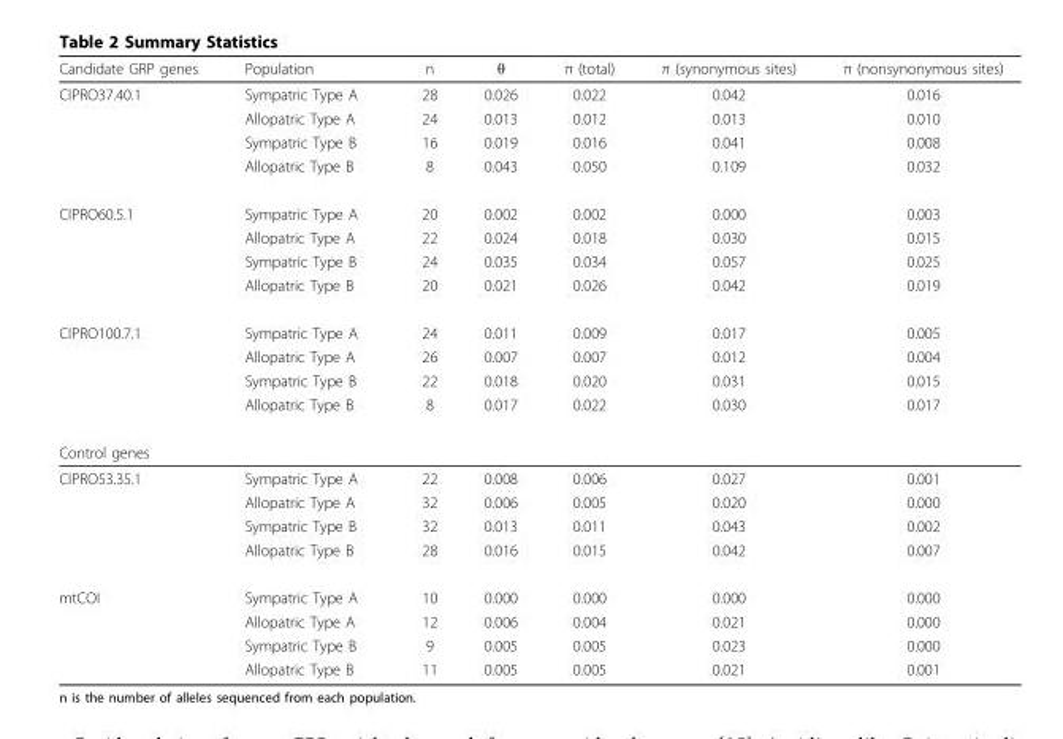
<table><thead><tr><td>Candidate GRP genes</td><td>Population</td><td>n</td><td>θ</td><td>π (total)</td><td>π (synonymous sites)</td><td>π (nonsynonymous sites)</td></tr></thead><tbody><tr><td rowspan="4">CIPRO37.40.1</td><td>Sympatric Type A</td><td>28</td><td>0.026</td><td>0.022</td><td>0.042</td><td>0.016</td></tr><tr><td>Allopatric Type A</td><td>24</td><td>0.013</td><td>0.012</td><td>0.013</td><td>0.010</td></tr><tr><td>Sympatric Type B</td><td>16</td><td>0.019</td><td>0.016</td><td>0.041</td><td>0.008</td></tr><tr><td>Allopatric Type B</td><td>8</td><td>0.043</td><td>0.050</td><td>0.109</td><td>0.032</td></tr><tr><td rowspan="4">CIPRO60.5.1</td><td>Sympatric Type A</td><td>20</td><td>0.002</td><td>0.002</td><td>0.000</td><td>0.003</td></tr><tr><td>Allopatric Type A</td><td>22</td><td>0.024</td><td>0.018</td><td>0.030</td><td>0.015</td></tr><tr><td>Sympatric Type B</td><td>24</td><td>0.035</td><td>0.034</td><td>0.057</td><td>0.025</td></tr><tr><td>Allopatric Type B</td><td>20</td><td>0.021</td><td>0.026</td><td>0.042</td><td>0.019</td></tr><tr><td rowspan="4">CIPRO100.7.1</td><td>Sympatric Type A</td><td>24</td><td>0.011</td><td>0.009</td><td>0.017</td><td>0.005</td></tr><tr><td>Allopatric Type A</td><td>26</td><td>0.007</td><td>0.007</td><td>0.012</td><td>0.004</td></tr><tr><td>Sympatric Type B</td><td>22</td><td>0.018</td><td>0.020</td><td>0.031</td><td>0.015</td></tr><tr><td>Allopatric Type B</td><td>8</td><td>0.017</td><td>0.022</td><td>0.030</td><td>0.017</td></tr><tr><td colspan="7">Control genes</td></tr><tr><td rowspan="4">CIPRO53.35.1</td><td>Sympatric Type A</td><td>22</td><td>0.008</td><td>0.006</td><td>0.027</td><td>0.001</td></tr><tr><td>Allopatric Type A</td><td>32</td><td>0.006</td><td>0.005</td><td>0.020</td><td>0.000</td></tr><tr><td>Sympatric Type B</td><td>32</td><td>0.013</td><td>0.011</td><td>0.043</td><td>0.002</td></tr><tr><td>Allopatric Type B</td><td>28</td><td>0.016</td><td>0.015</td><td>0.042</td><td>0.007</td></tr><tr><td rowspan="4">mtCOI</td><td>Sympatric Type A</td><td>10</td><td>0.000</td><td>0.000</td><td>0.000</td><td>0.000</td></tr><tr><td>Allopatric Type A</td><td>12</td><td>0.006</td><td>0.004</td><td>0.021</td><td>0.000</td></tr><tr><td>Sympatric Type B</td><td>9</td><td>0.005</td><td>0.005</td><td>0.023</td><td>0.000</td></tr><tr><td>Allopatric Type B</td><td>11</td><td>0.005</td><td>0.005</td><td>0.021</td><td>0.001</td></tr></tbody></table>